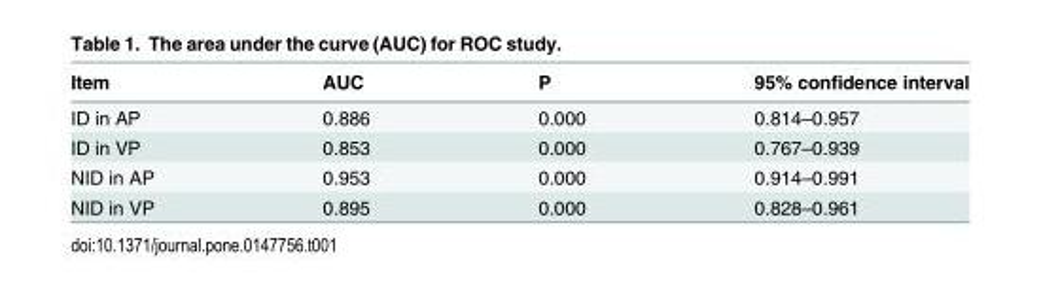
<table><thead><tr><td>Item</td><td>AUC</td><td>P</td><td>95% confidence interval</td></tr></thead><tbody><tr><td>ID in AP</td><td>0.886</td><td>0.000</td><td>0.814–0.957</td></tr><tr><td>ID in VP</td><td>0.853</td><td>0.000</td><td>0.767–0.939</td></tr><tr><td>NID in AP</td><td>0.953</td><td>0.000</td><td>0.914–0.991</td></tr><tr><td>NID in VP</td><td>0.895</td><td>0.000</td><td>0.828–0.961</td></tr></tbody></table>